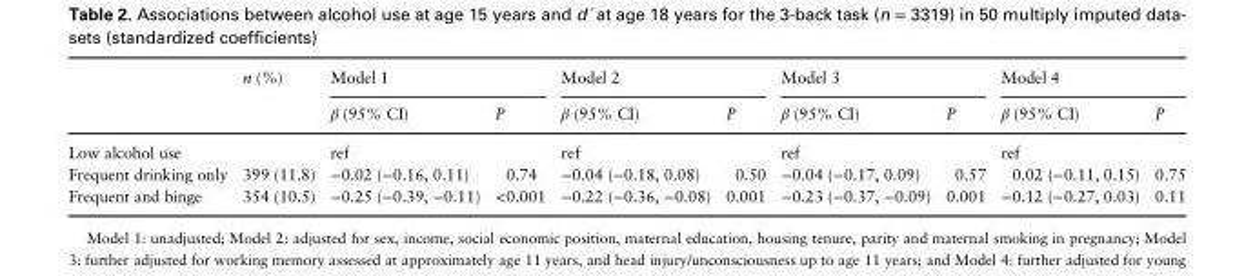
<table><thead><tr><td rowspan="2"></td><td rowspan="2">n (%)</td><td colspan="2">Model 1</td><td colspan="2">Model 2</td><td colspan="2">Model 3</td><td colspan="2">Model 4</td></tr><tr><td>β (95% CI)</td><td>P</td><td>β (95% CI)</td><td>P</td><td>β (95% CI)</td><td>P</td><td>β (95% CI)</td><td>P</td></tr></thead><tbody><tr><td>Low alcohol use</td><td></td><td>ref</td><td></td><td>ref</td><td></td><td>ref</td><td></td><td>ref</td><td></td></tr><tr><td>Frequent drinking only</td><td>399 (11.8)</td><td>−0.02 (−0.16, 0.11)</td><td>0.74</td><td>−0.04 (−0.18, 0.08)</td><td>0.50</td><td>−0.04 (−0.17, 0.09)</td><td>0.57</td><td>0.02 (−0.11, 0.15)</td><td>0.75</td></tr><tr><td>Frequent and binge</td><td>354 (10.5)</td><td>−0.25 (−0.39, −0.11)</td><td>&lt;0.001</td><td>−0.22 (−0.36, −0.08)</td><td>0.001</td><td>−0.23 (−0.37, −0.09)</td><td>0.001</td><td>−0.12 (−0.27, 0.03)</td><td>0.11</td></tr></tbody></table>